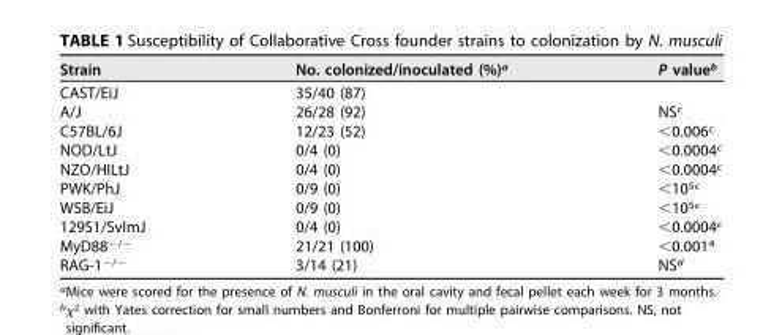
<table><thead><tr><td>Strain</td><td>No. colonized/inoculated (%)<sup>a</sup></td><td>P value<sup>b</sup></td></tr></thead><tbody><tr><td>CAST/EiJ</td><td>35/40 (87)</td><td></td></tr><tr><td>A/J</td><td>26/28 (92)</td><td>NS<sup>c</sup></td></tr><tr><td>C57BL/6J</td><td>12/23 (52)</td><td>&lt;0.006<sup>c</sup></td></tr><tr><td>NOD/LtJ</td><td>0/4 (0)</td><td>&lt;0.0004<sup>c</sup></td></tr><tr><td>NZO/HILtJ</td><td>0/4 (0)</td><td>&lt;0.0004<sup>c</sup></td></tr><tr><td>PWK/PhJ</td><td>0/9 (0)</td><td>&lt;10<sup>5c</sup></td></tr><tr><td>WSB/EiJ</td><td>0/9 (0)</td><td>&lt;10<sup>5c</sup></td></tr><tr><td>129S1/SvImJ</td><td>0/4 (0)</td><td>&lt;0.0004<sup>c</sup></td></tr><tr><td>MyD88<sup>−/−</sup></td><td>21/21 (100)</td><td>&lt;0.001<sup>4</sup></td></tr><tr><td>RAG-1<sup>−/−</sup></td><td>3/14 (21)</td><td>NS<sup>d</sup></td></tr></tbody></table>